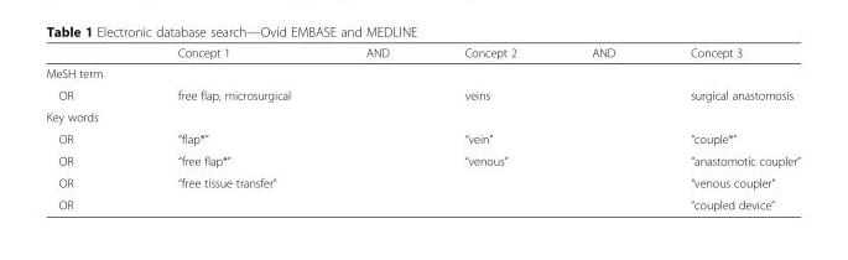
<table><thead><tr><td></td><td>Concept 1</td><td>AND</td><td>Concept 2</td><td>AND</td><td>Concept 3</td></tr></thead><tbody><tr><td colspan="6">MeSH term</td></tr><tr><td>OR</td><td>free flap, microsurgical</td><td></td><td>veins</td><td></td><td>surgical anastomosis</td></tr><tr><td colspan="6">Key words</td></tr><tr><td>OR</td><td>“flap*”</td><td></td><td>“vein”</td><td></td><td>“couple*”</td></tr><tr><td>OR</td><td>“free flap*”</td><td></td><td>“venous”</td><td></td><td>“anastomotic coupler”</td></tr><tr><td>OR</td><td>“free tissue transfer”</td><td></td><td></td><td></td><td>“venous coupler”</td></tr><tr><td>OR</td><td></td><td></td><td></td><td></td><td>“coupled device”</td></tr></tbody></table>